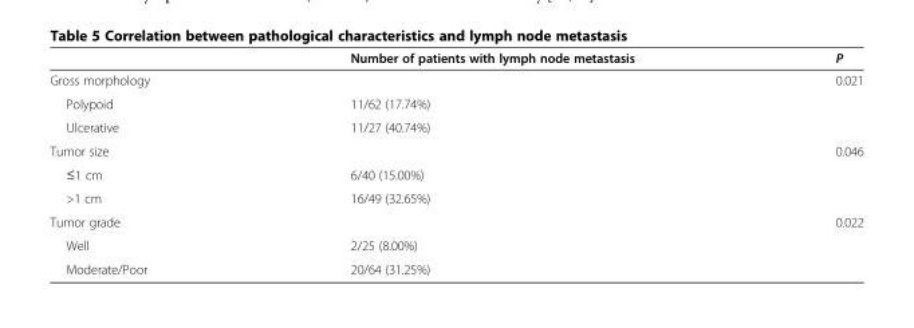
<table><thead><tr><td></td><td>Number of patients with lymph node metastasis</td><td>P</td></tr></thead><tbody><tr><td>Gross morphology</td><td></td><td>0.021</td></tr><tr><td>Polypoid</td><td>11/62 (17.74%)</td><td></td></tr><tr><td>Ulcerative</td><td>11/27 (40.74%)</td><td></td></tr><tr><td>Tumor size</td><td></td><td>0.046</td></tr><tr><td>≤1 cm</td><td>6/40 (15.00%)</td><td></td></tr><tr><td>&gt;1 cm</td><td>16/49 (32.65%)</td><td></td></tr><tr><td>Tumor grade</td><td></td><td>0.022</td></tr><tr><td>Well</td><td>2/25 (8.00%)</td><td></td></tr><tr><td>Moderate/Poor</td><td>20/64 (31.25%)</td><td></td></tr></tbody></table>